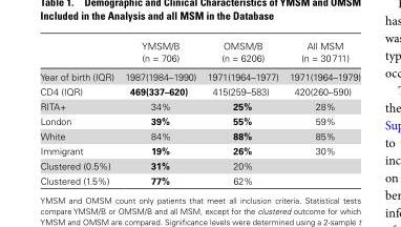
<table><thead><tr><td></td><td>YMSM/B (n = 706)</td><td>OMSM/B (n = 6206)</td><td>All MSM (n = 30 711)</td></tr></thead><tbody><tr><td>Year of birth (IQR)</td><td>1987(1984–1990)</td><td>1971(1964–1977)</td><td>1971(1964–1979)</td></tr><tr><td>CD4 (IQR)</td><td>469(337–620)</td><td>415(259–583)</td><td>420(260–590)</td></tr><tr><td>RITA+</td><td>34%</td><td>25%</td><td>28%</td></tr><tr><td>London</td><td>39%</td><td>55%</td><td>59%</td></tr><tr><td>White</td><td>84%</td><td>88%</td><td>85%</td></tr><tr><td>Immigrant</td><td>19%</td><td>26%</td><td>30%</td></tr><tr><td>Clustered (0.5%)</td><td>31%</td><td>20%</td><td></td></tr><tr><td>Clustered (1.5%)</td><td>77%</td><td>62%</td><td></td></tr></tbody></table>